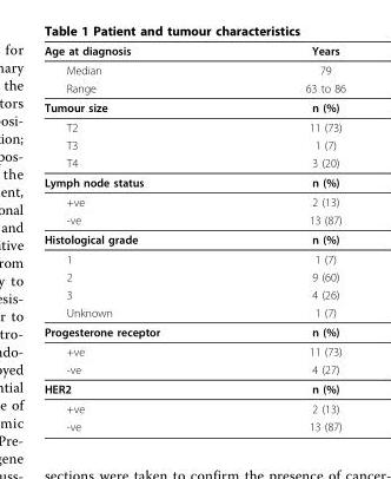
<table><thead><tr><td>Age at diagnosis</td><td>Years</td></tr></thead><tbody><tr><td>Median</td><td>79</td></tr><tr><td>Range</td><td>63 to 86</td></tr><tr><td>Tumour size</td><td>n (%)</td></tr><tr><td>T2</td><td>11 (73)</td></tr><tr><td>T3</td><td>1 (7)</td></tr><tr><td>T4</td><td>3 (20)</td></tr><tr><td>Lymph node status</td><td>n (%)</td></tr><tr><td>+ve</td><td>2 (13)</td></tr><tr><td>-ve</td><td>13 (87)</td></tr><tr><td>Histological grade</td><td>n (%)</td></tr><tr><td>1</td><td>1 (7)</td></tr><tr><td>2</td><td>9 (60)</td></tr><tr><td>3</td><td>4 (26)</td></tr><tr><td>Unknown</td><td>1 (7)</td></tr><tr><td>Progesterone receptor</td><td>n (%)</td></tr><tr><td>+ve</td><td>11 (73)</td></tr><tr><td>-ve</td><td>4 (27)</td></tr><tr><td>HER2</td><td>n (%)</td></tr><tr><td>+ve</td><td>2 (13)</td></tr><tr><td>-ve</td><td>13 (87)</td></tr></tbody></table>